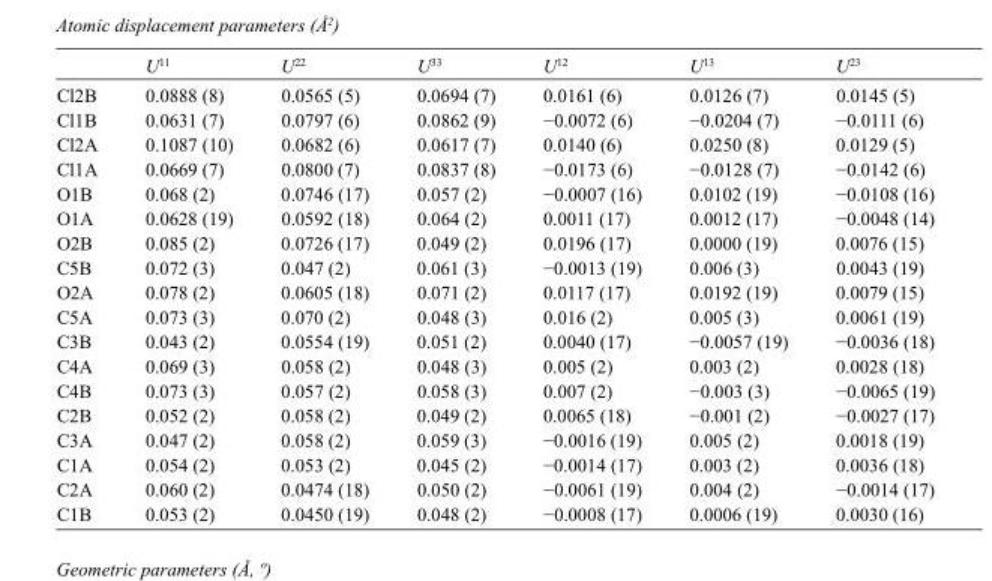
<table><thead><tr><td></td><td>U<sup>11</sup></td><td>U<sup>22</sup></td><td>U<sup>33</sup></td><td>U<sup>12</sup></td><td>U<sup>13</sup></td><td>U<sup>23</sup></td></tr></thead><tbody><tr><td>Cl2B</td><td>0.0888 (8)</td><td>0.0565 (5)</td><td>0.0694 (7)</td><td>0.0161 (6)</td><td>0.0126 (7)</td><td>0.0145 (5)</td></tr><tr><td>Cl1B</td><td>0.0631 (7)</td><td>0.0797 (6)</td><td>0.0862 (9)</td><td>−0.0072 (6)</td><td>−0.0204 (7)</td><td>−0.0111 (6)</td></tr><tr><td>Cl2A</td><td>0.1087 (10)</td><td>0.0682 (6)</td><td>0.0617 (7)</td><td>0.0140 (6)</td><td>0.0250 (8)</td><td>0.0129 (5)</td></tr><tr><td>Cl1A</td><td>0.0669 (7)</td><td>0.0800 (7)</td><td>0.0837 (8)</td><td>−0.0173 (6)</td><td>−0.0128 (7)</td><td>−0.0142 (6)</td></tr><tr><td>O1B</td><td>0.068 (2)</td><td>0.0746 (17)</td><td>0.057 (2)</td><td>−0.0007 (16)</td><td>0.0102 (19)</td><td>−0.0108 (16)</td></tr><tr><td>O1A</td><td>0.0628 (19)</td><td>0.0592 (18)</td><td>0.064 (2)</td><td>0.0011 (17)</td><td>0.0012 (17)</td><td>−0.0048 (14)</td></tr><tr><td>O2B</td><td>0.085 (2)</td><td>0.0726 (17)</td><td>0.049 (2)</td><td>0.0196 (17)</td><td>0.0000 (19)</td><td>0.0076 (15)</td></tr><tr><td>C5B</td><td>0.072 (3)</td><td>0.047 (2)</td><td>0.061 (3)</td><td>−0.0013 (19)</td><td>0.006 (3)</td><td>0.0043 (19)</td></tr><tr><td>O2A</td><td>0.078 (2)</td><td>0.0605 (18)</td><td>0.071 (2)</td><td>0.0117 (17)</td><td>0.0192 (19)</td><td>0.0079 (15)</td></tr><tr><td>C5A</td><td>0.073 (3)</td><td>0.070 (2)</td><td>0.048 (3)</td><td>0.016 (2)</td><td>0.005 (3)</td><td>0.0061 (19)</td></tr><tr><td>C3B</td><td>0.043 (2)</td><td>0.0554 (19)</td><td>0.051 (2)</td><td>0.0040 (17)</td><td>−0.0057 (19)</td><td>−0.0036 (18)</td></tr><tr><td>C4A</td><td>0.069 (3)</td><td>0.058 (2)</td><td>0.048 (3)</td><td>0.005 (2)</td><td>0.003 (2)</td><td>0.0028 (18)</td></tr><tr><td>C4B</td><td>0.073 (3)</td><td>0.057 (2)</td><td>0.058 (3)</td><td>0.007 (2)</td><td>−0.003 (3)</td><td>−0.0065 (19)</td></tr><tr><td>C2B</td><td>0.052 (2)</td><td>0.058 (2)</td><td>0.049 (2)</td><td>0.0065 (18)</td><td>−0.001 (2)</td><td>−0.0027 (17)</td></tr><tr><td>C3A</td><td>0.047 (2)</td><td>0.058 (2)</td><td>0.059 (3)</td><td>−0.0016 (19)</td><td>0.005 (2)</td><td>0.0018 (19)</td></tr><tr><td>C1A</td><td>0.054 (2)</td><td>0.053 (2)</td><td>0.045 (2)</td><td>−0.0014 (17)</td><td>0.003 (2)</td><td>0.0036 (18)</td></tr><tr><td>C2A</td><td>0.060 (2)</td><td>0.0474 (18)</td><td>0.050 (2)</td><td>−0.0061 (19)</td><td>0.004 (2)</td><td>−0.0014 (17)</td></tr><tr><td>C1B</td><td>0.053 (2)</td><td>0.0450 (19)</td><td>0.048 (2)</td><td>−0.0008 (17)</td><td>0.0006 (19)</td><td>0.0030 (16)</td></tr></tbody></table>